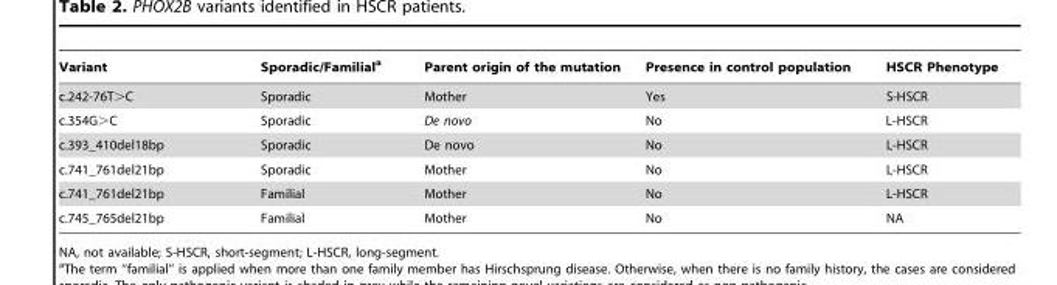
<table><thead><tr><td>Variant</td><td>Sporadic/Familial<sup>a</sup></td><td>Parent origin of the mutation</td><td>Presence in control population</td><td>HSCR Phenotype</td></tr></thead><tbody><tr><td>c.242-76T&gt;C</td><td>Sporadic</td><td>Mother</td><td>Yes</td><td>S-HSCR</td></tr><tr><td>c.354G&gt;C</td><td>Sporadic</td><td>De novo</td><td>No</td><td>L-HSCR</td></tr><tr><td>c.393_410del18bp</td><td>Sporadic</td><td>De novo</td><td>No</td><td>L-HSCR</td></tr><tr><td>c.741_761del21bp</td><td>Sporadic</td><td>Mother</td><td>No</td><td>L-HSCR</td></tr><tr><td>c.741_761del21bp</td><td>Familial</td><td>Mother</td><td>No</td><td>L-HSCR</td></tr><tr><td>c.745_765del21bp</td><td>Familial</td><td>Mother</td><td>No</td><td>NA</td></tr></tbody></table>